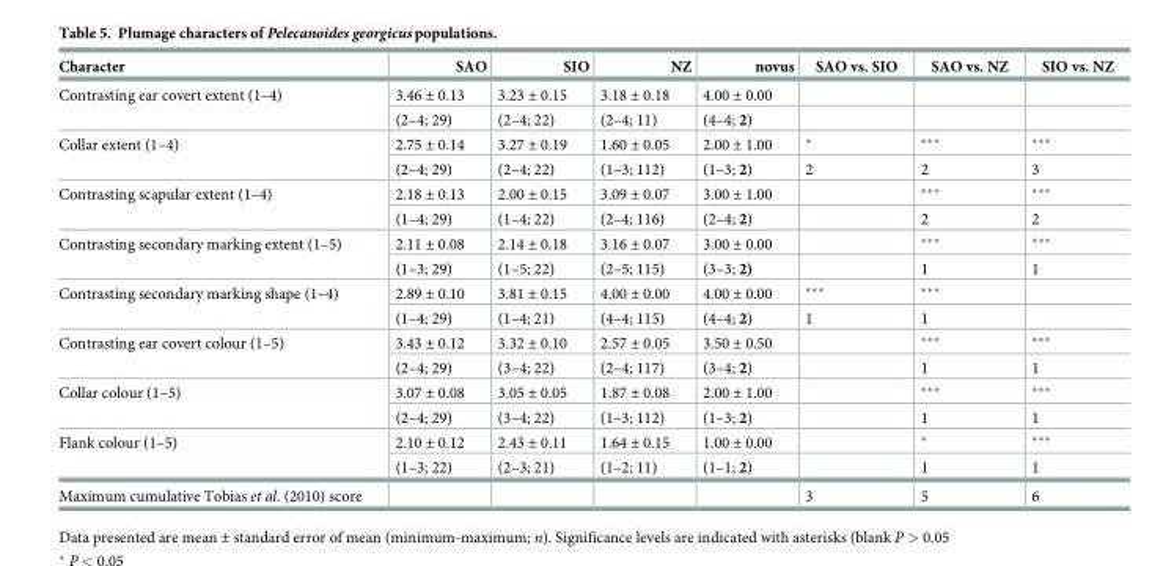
<table><thead><tr><td>Character</td><td>SAO</td><td>SIO</td><td>NZ</td><td>novus</td><td>SAO vs. SIO</td><td>SAO vs. NZ</td><td>SIO vs. NZ</td></tr></thead><tbody><tr><td rowspan="2">Contrasting ear covert extent (1–4)</td><td>3.46 ± 0.13</td><td>3.23 ± 0.15</td><td>3.18 ± 0.18</td><td>4.00 ± 0.00</td><td></td><td></td><td></td></tr><tr><td>(2–4; 29)</td><td>(2–4; 22)</td><td>(2–4; 11)</td><td>(4–4; 2)</td><td></td><td></td><td></td></tr><tr><td rowspan="2">Collar extent (1–4)</td><td>2.75 ± 0.14</td><td>3.27 ± 0.19</td><td>1.60 ± 0.05</td><td>2.00 ± 1.00</td><td>*</td><td>***</td><td>***</td></tr><tr><td>(2–4; 29)</td><td>(2–4; 22)</td><td>(1–3; 112)</td><td>(1–3; 2)</td><td>2</td><td>2</td><td>3</td></tr><tr><td rowspan="2">Contrasting scapular extent (1–4)</td><td>2.18 ± 0.13</td><td>2.00 ± 0.15</td><td>3.09 ± 0.07</td><td>3.00 ± 1.00</td><td></td><td>***</td><td>***</td></tr><tr><td>(1–4; 29)</td><td>(1–4; 22)</td><td>(2–4; 116)</td><td>(2–4; 2)</td><td></td><td>2</td><td>2</td></tr><tr><td rowspan="2">Contrasting secondary marking extent (1–5)</td><td>2.11 ± 0.08</td><td>2.14 ± 0.18</td><td>3.16 ± 0.07</td><td>3.00 ± 0.00</td><td></td><td>***</td><td>***</td></tr><tr><td>(1–3; 29)</td><td>(1–5; 22)</td><td>(2–5; 115)</td><td>(3–3; 2)</td><td></td><td>1</td><td>1</td></tr><tr><td rowspan="2">Contrasting secondary marking shape (1–4)</td><td>2.89 ± 0.10</td><td>3.81 ± 0.15</td><td>4.00 ± 0.00</td><td>4.00 ± 0.00</td><td>***</td><td>***</td><td></td></tr><tr><td>(1–4; 29)</td><td>(1–4; 21)</td><td>(4–4; 115)</td><td>(4–4; 2)</td><td>1</td><td>1</td><td></td></tr><tr><td rowspan="2">Contrasting ear covert colour (1–5)</td><td>3.43 ± 0.12</td><td>3.32 ± 0.10</td><td>2.57 ± 0.05</td><td>3.50 ± 0.50</td><td></td><td>***</td><td>***</td></tr><tr><td>(2–4; 29)</td><td>(3–4; 22)</td><td>(2–4; 117)</td><td>(3–4; 2)</td><td></td><td>1</td><td>1</td></tr><tr><td rowspan="2">Collar colour (1–5)</td><td>3.07 ± 0.08</td><td>3.05 ± 0.05</td><td>1.87 ± 0.08</td><td>2.00 ± 1.00</td><td></td><td>***</td><td>***</td></tr><tr><td>(2–4; 29)</td><td>(3–4; 22)</td><td>(1–3; 112)</td><td>(1–3; 2)</td><td></td><td>1</td><td>1</td></tr><tr><td rowspan="2">Flank colour (1–5)</td><td>2.10 ± 0.12</td><td>2.43 ± 0.11</td><td>1.64 ± 0.15</td><td>1.00 ± 0.00</td><td></td><td>*</td><td>***</td></tr><tr><td>(1–3; 22)</td><td>(2–3; 21)</td><td>(1–2; 11)</td><td>(1–1; 2)</td><td></td><td>1</td><td>1</td></tr><tr><td>Maximum cumulative Tobias et al. (2010) score</td><td></td><td></td><td></td><td></td><td>3</td><td>5</td><td>6</td></tr></tbody></table>